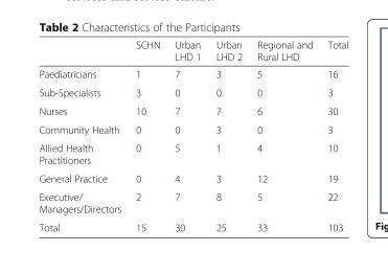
<table><thead><tr><td></td><td>SCHN</td><td>Urban LHD 1</td><td>Urban LHD 2</td><td>Regional and Rural LHD</td><td>Total</td></tr></thead><tbody><tr><td>Paediatricians</td><td>1</td><td>7</td><td>3</td><td>5</td><td>16</td></tr><tr><td>Sub-Specialists</td><td>3</td><td>0</td><td>0</td><td>0</td><td>3</td></tr><tr><td>Nurses</td><td>10</td><td>7</td><td>7</td><td>6</td><td>30</td></tr><tr><td>Community Health</td><td>0</td><td>0</td><td>3</td><td>0</td><td>3</td></tr><tr><td>Allied Health Practitioners</td><td>0</td><td>5</td><td>1</td><td>4</td><td>10</td></tr><tr><td>General Practice</td><td>0</td><td>4</td><td>3</td><td>12</td><td>19</td></tr><tr><td>Executive/ Managers/Directors</td><td>2</td><td>7</td><td>8</td><td>5</td><td>22</td></tr><tr><td>Total</td><td>15</td><td>30</td><td>25</td><td>33</td><td>103</td></tr></tbody></table>